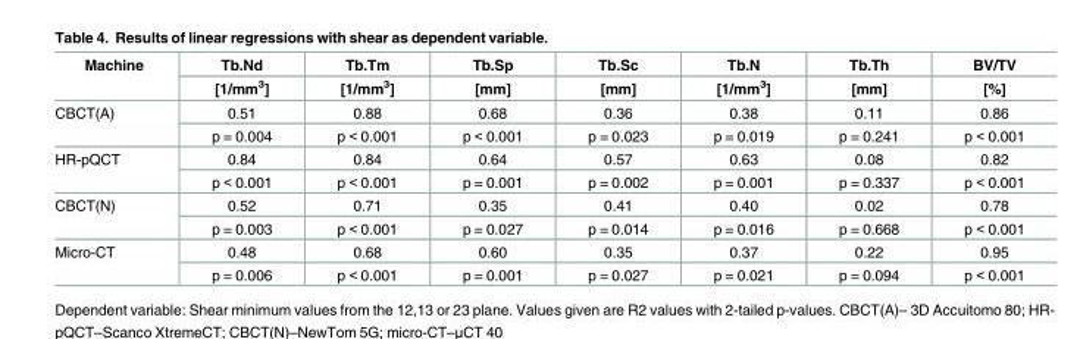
<table><thead><tr><td rowspan="2">Machine</td><td rowspan="2">Tb.Nd [1/mm<sup>3</sup>]</td><td rowspan="2">Tb.Tm [1/mm<sup>3</sup>]</td><td rowspan="2">Tb.Sp [mm]</td><td rowspan="2">Tb.Sc [mm]</td><td rowspan="2">Tb.N [1/mm<sup>3</sup>]</td><td rowspan="2">Tb.Th [mm]</td><td rowspan="2">BV/TV [%]</td></tr><tr></tr></thead><tbody><tr><td rowspan="2">CBCT(A)</td><td>0.51</td><td>0.88</td><td>0.68</td><td>0.36</td><td>0.38</td><td>0.11</td><td>0.86</td></tr><tr><td>p = 0.004</td><td>p &lt; 0.001</td><td>p &lt; 0.001</td><td>p = 0.023</td><td>p = 0.019</td><td>p = 0.241</td><td>p &lt; 0.001</td></tr><tr><td rowspan="2">HR-pQCT</td><td>0.84</td><td>0.84</td><td>0.64</td><td>0.57</td><td>0.63</td><td>0.08</td><td>0.82</td></tr><tr><td>p &lt; 0.001</td><td>p &lt; 0.001</td><td>p = 0.001</td><td>p = 0.002</td><td>p = 0.001</td><td>p = 0.337</td><td>p &lt; 0.001</td></tr><tr><td rowspan="2">CBCT(N)</td><td>0.52</td><td>0.71</td><td>0.35</td><td>0.41</td><td>0.40</td><td>0.02</td><td>0.78</td></tr><tr><td>p = 0.003</td><td>p &lt; 0.001</td><td>p = 0.027</td><td>p = 0.014</td><td>p = 0.016</td><td>p = 0.668</td><td>p &lt; 0.001</td></tr><tr><td rowspan="2">Micro-CT</td><td>0.48</td><td>0.68</td><td>0.60</td><td>0.35</td><td>0.37</td><td>0.22</td><td>0.95</td></tr><tr><td>p = 0.006</td><td>p &lt; 0.001</td><td>p = 0.001</td><td>p = 0.027</td><td>p = 0.021</td><td>p = 0.094</td><td>p &lt; 0.001</td></tr></tbody></table>